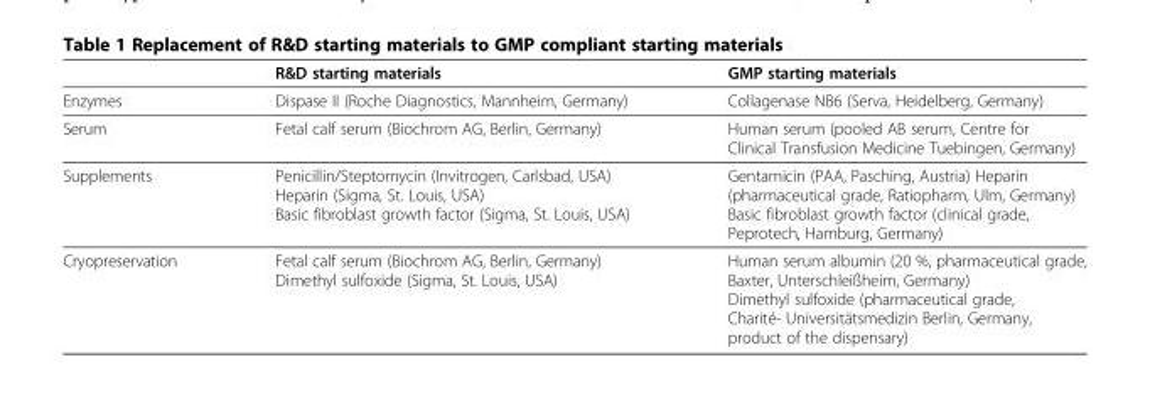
<table><thead><tr><td></td><td>R&amp;D starting materials</td><td>GMP starting materials</td></tr></thead><tbody><tr><td>Enzymes</td><td>Dispase II (Roche Diagnostics, Mannheim, Germany)</td><td>Collagenase NB6 (Serva, Heidelberg, Germany)</td></tr><tr><td>Serum</td><td>Fetal calf serum (Biochrom AG, Berlin, Germany)</td><td>Human serum (pooled AB serum, Centre for Clinical Transfusion Medicine Tuebingen, Germany)</td></tr><tr><td>Supplements</td><td>Penicillin/Steptomycin (Invitrogen, Carlsbad, USA) Heparin (Sigma, St. Louis, USA) Basic fibroblast growth factor (Sigma, St. Louis, USA)</td><td>Gentamicin (PAA, Pasching, Austria) Heparin (pharmaceutical grade, Ratiopharm, Ulm, Germany) Basic fibroblast growth factor (clinical grade, Peprotech, Hamburg, Germany)</td></tr><tr><td>Cryopreservation</td><td>Fetal calf serum (Biochrom AG, Berlin, Germany) Dimethyl sulfoxide (Sigma, St. Louis, USA)</td><td>Human serum albumin (20 %, pharmaceutical grade, Baxter, Unterschleißheim, Germany) Dimethyl sulfoxide (pharmaceutical grade, Charité- Universitätsmedizin Berlin, Germany, product of the dispensary)</td></tr></tbody></table>